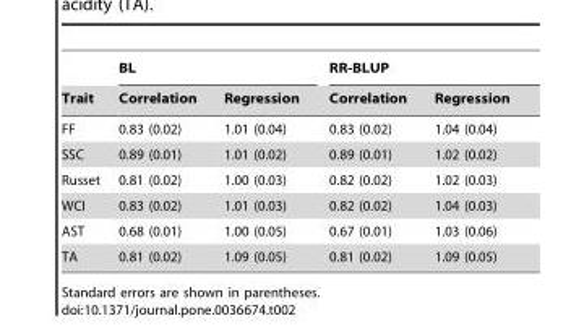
<table><thead><tr><td rowspan="2">Trait</td><td colspan="2">BL</td><td colspan="2">RR-BLUP</td></tr><tr><td>Correlation</td><td>Regression</td><td>Correlation</td><td>Regression</td></tr></thead><tbody><tr><td>FF</td><td>0.83 (0.02)</td><td>1.01 (0.04)</td><td>0.83 (0.02)</td><td>1.04 (0.04)</td></tr><tr><td>SSC</td><td>0.89 (0.01)</td><td>1.01 (0.02)</td><td>0.89 (0.01)</td><td>1.02 (0.02)</td></tr><tr><td>Russet</td><td>0.81 (0.02)</td><td>1.00 (0.03)</td><td>0.82 (0.02)</td><td>1.02 (0.03)</td></tr><tr><td>WCI</td><td>0.83 (0.02)</td><td>1.01 (0.03)</td><td>0.82 (0.02)</td><td>1.04 (0.03)</td></tr><tr><td>AST</td><td>0.68 (0.01)</td><td>1.00 (0.05)</td><td>0.67 (0.01)</td><td>1.03 (0.06)</td></tr><tr><td>TA</td><td>0.81 (0.02)</td><td>1.09 (0.05)</td><td>0.81 (0.02)</td><td>1.09 (0.05)</td></tr></tbody></table>